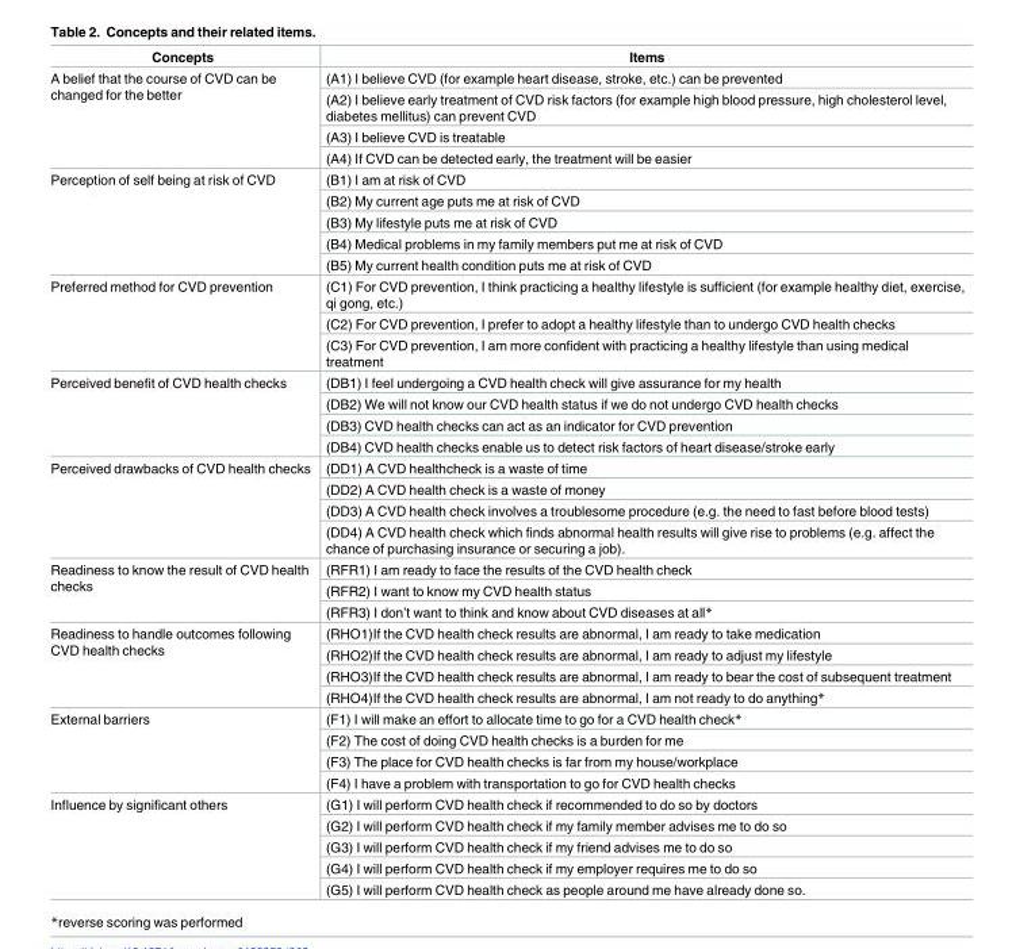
<table><thead><tr><td>Concepts</td><td>Items</td></tr></thead><tbody><tr><td rowspan="4">A belief that the course of CVD can be changed for the better</td><td>(A1) I believe CVD (for example heart disease, stroke, etc.) can be prevented</td></tr><tr><td>(A2) I believe early treatment of CVD risk factors (for example high blood pressure, high cholesterol level, diabetes mellitus) can prevent CVD</td></tr><tr><td>(A3) I believe CVD is treatable</td></tr><tr><td>(A4) If CVD can be detected early, the treatment will be easier</td></tr><tr><td rowspan="5">Perception of self being at risk of CVD</td><td>(B1) I am at risk of CVD</td></tr><tr><td>(B2) My current age puts me at risk of CVD</td></tr><tr><td>(B3) My lifestyle puts me at risk of CVD</td></tr><tr><td>(B4) Medical problems in my family members put me at risk of CVD</td></tr><tr><td>(B5) My current health condition puts me at risk of CVD</td></tr><tr><td rowspan="3">Preferred method for CVD prevention</td><td>(C1) For CVD prevention, I think practicing a healthy lifestyle is sufficient (for example healthy diet, exercise, qi gong, etc.)</td></tr><tr><td>(C2) For CVD prevention, I prefer to adopt a healthy lifestyle than to undergo CVD health checks</td></tr><tr><td>(C3) For CVD prevention, I am more confident with practicing a healthy lifestyle than using medical treatment</td></tr><tr><td rowspan="4">Perceived benefit of CVD health checks</td><td>(DB1) I feel undergoing a CVD health check will give assurance for my health</td></tr><tr><td>(DB2) We will not know our CVD health status if we do not undergo CVD health checks</td></tr><tr><td>(DB3) CVD health checks can act as an indicator for CVD prevention</td></tr><tr><td>(DB4) CVD health checks enable us to detect risk factors of heart disease/stroke early</td></tr><tr><td rowspan="4">Perceived drawbacks of CVD health checks</td><td>(DD1) A CVD healthcheck is a waste of time</td></tr><tr><td>(DD2) A CVD health check is a waste of money</td></tr><tr><td>(DD3) A CVD health check involves a troublesome procedure (e.g. the need to fast before blood tests)</td></tr><tr><td>(DD4) A CVD health check which finds abnormal health results will give rise to problems (e.g. affect the chance of purchasing insurance or securing a job).</td></tr><tr><td rowspan="3">Readiness to know the result of CVD health checks</td><td>(RFR1) I am ready to face the results of the CVD health check</td></tr><tr><td>(RFR2) I want to know my CVD health status</td></tr><tr><td>(RFR3) I don’t want to think and know about CVD diseases at all*</td></tr><tr><td rowspan="4">Readiness to handle outcomes following CVD health checks</td><td>(RHO1)If the CVD health check results are abnormal, I am ready to take medication</td></tr><tr><td>(RHO2)If the CVD health check results are abnormal, I am ready to adjust my lifestyle</td></tr><tr><td>(RHO3)If the CVD health check results are abnormal, I am ready to bear the cost of subsequent treatment</td></tr><tr><td>(RHO4)If the CVD health check results are abnormal, I am not ready to do anything*</td></tr><tr><td rowspan="4">External barriers</td><td>(F1) I will make an effort to allocate time to go for a CVD health check*</td></tr><tr><td>(F2) The cost of doing CVD health checks is a burden for me</td></tr><tr><td>(F3) The place for CVD health checks is far from my house/workplace</td></tr><tr><td>(F4) I have a problem with transportation to go for CVD health checks</td></tr><tr><td rowspan="5">Influence by significant others</td><td>(G1) I will perform CVD health check if recommended to do so by doctors</td></tr><tr><td>(G2) I will perform CVD health check if my family member advises me to do so</td></tr><tr><td>(G3) I will perform CVD health check if my friend advises me to do so</td></tr><tr><td>(G4) I will perform CVD health check if my employer requires me to do so</td></tr><tr><td>(G5) I will perform CVD health check as people around me have already done so.</td></tr></tbody></table>